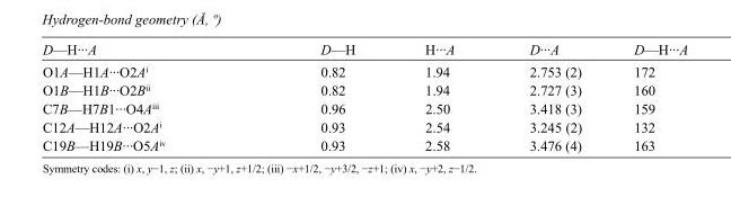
<table><tbody><tr><td>D—H···A</td><td>D—H</td><td>H···A</td><td>D···A</td><td>D—H···A</td></tr><tr><td>O1A—H1A···O2A<sup>i</sup></td><td>0.82</td><td>1.94</td><td>2.753 (2)</td><td>172</td></tr><tr><td>O1B—H1B···O2B<sup>ii</sup></td><td>0.82</td><td>1.94</td><td>2.727 (3)</td><td>160</td></tr><tr><td>C7B—H7B1···O4A<sup>iii</sup></td><td>0.96</td><td>2.50</td><td>3.418 (3)</td><td>159</td></tr><tr><td>C12A—H12A···O2A<sup>i</sup></td><td>0.93</td><td>2.54</td><td>3.245 (2)</td><td>132</td></tr><tr><td>C19B—H19B···O5A<sup>iv</sup></td><td>0.93</td><td>2.58</td><td>3.476 (4)</td><td>163</td></tr></tbody></table>